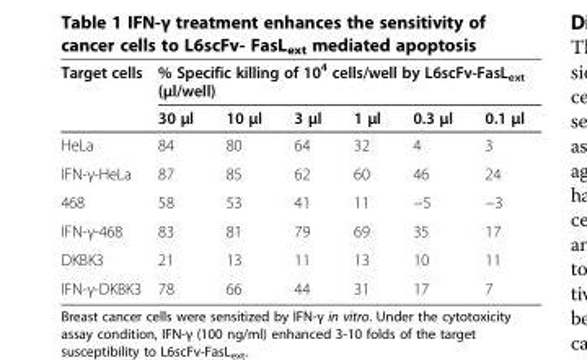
<table><thead><tr><td rowspan="2">Target cells</td><td colspan="6">% Specific killing of 10<sup>4</sup> cells/well by L6scFv-FasL<sub>ext</sub> (μl/well)</td></tr><tr><td>30 μl</td><td>10 μl</td><td>3 μl</td><td>1 μl</td><td>0.3 μl</td><td>0.1 μl</td></tr></thead><tbody><tr><td>HeLa</td><td>84</td><td>80</td><td>64</td><td>32</td><td>4</td><td>3</td></tr><tr><td>IFN-γ-HeLa</td><td>87</td><td>85</td><td>62</td><td>60</td><td>46</td><td>24</td></tr><tr><td>468</td><td>58</td><td>53</td><td>41</td><td>11</td><td>−5</td><td>−3</td></tr><tr><td>IFN-γ-468</td><td>83</td><td>81</td><td>79</td><td>69</td><td>35</td><td>17</td></tr><tr><td>DKBK3</td><td>21</td><td>13</td><td>11</td><td>13</td><td>10</td><td>11</td></tr><tr><td>IFN-γ-DKBK3</td><td>78</td><td>66</td><td>44</td><td>31</td><td>17</td><td>7</td></tr></tbody></table>